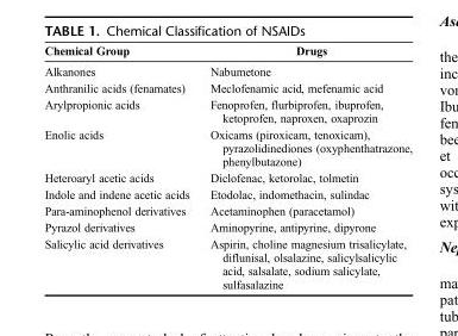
<table><thead><tr><td>Chemical Group</td><td>Drugs</td></tr></thead><tbody><tr><td>Alkanones</td><td>Nabumetone</td></tr><tr><td>Anthranilic acids (fenamates)</td><td>Meclofenamic acid, mefenamic acid</td></tr><tr><td>Arylpropionic acids</td><td>Fenoprofen, flurbiprofen, ibuprofen, ketoprofen, naproxen, oxaprozin</td></tr><tr><td>Enolic acids</td><td>Oxicams (piroxicam, tenoxicam), pyrazolidinediones (oxyphenthatrazone, phenylbutazone)</td></tr><tr><td>Heteroaryl acetic acids</td><td>Diclofenac, ketorolac, tolmetin</td></tr><tr><td>Indole and indene acetic acids</td><td>Etodolac, indomethacin, sulindac</td></tr><tr><td>Para-aminophenol derivatives</td><td>Acetaminophen (paracetamol)</td></tr><tr><td>Pyrazol derivatives</td><td>Aminopyrine, antipyrine, dipyrone</td></tr><tr><td>Salicylic acid derivatives</td><td>Aspirin, choline magnesium trisalicylate, diflunisal, olsalazine, salicylsalicylic acid, salsalate, sodium salicylate, sulfasalazine</td></tr></tbody></table>